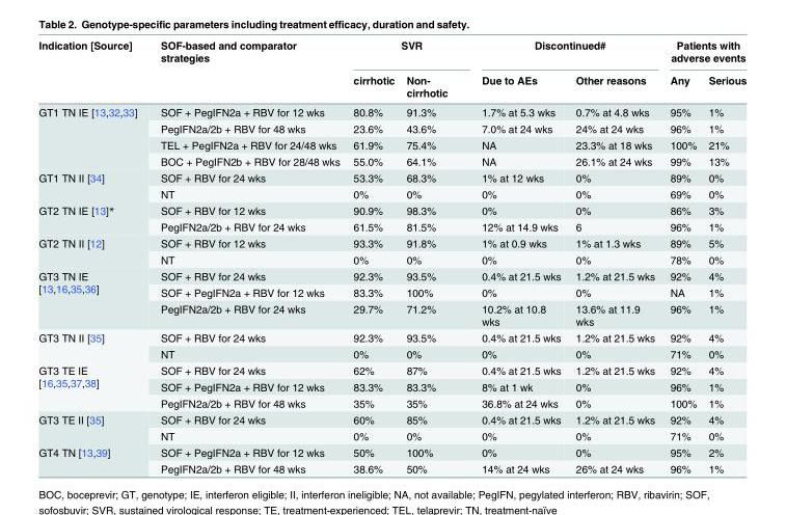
<table><thead><tr><td rowspan="2">Indication [Source]</td><td rowspan="2">SOF-based and comparator strategies</td><td colspan="2">SVR</td><td colspan="2">Discontinued#</td><td colspan="2">Patients with adverse events</td></tr><tr><td>cirrhotic</td><td>Non- cirrhotic</td><td>Due to AEs</td><td>Other reasons</td><td>Any</td><td>Serious</td></tr></thead><tbody><tr><td rowspan="4">GT1 TN IE [13,32,33]</td><td>SOF + PegIFN2a + RBV for 12 wks</td><td>80.8%</td><td>91.3%</td><td>1.7% at 5.3 wks</td><td>0.7% at 4.8 wks</td><td>95%</td><td>1%</td></tr><tr><td>PegIFN2a/2b + RBV for 48 wks</td><td>23.6%</td><td>43.6%</td><td>7.0% at 24 wks</td><td>24% at 24 wks</td><td>96%</td><td>1%</td></tr><tr><td>TEL + PegIFN2a + RBV for 24/48 wks</td><td>61.9%</td><td>75.4%</td><td>NA</td><td>23.3% at 18 wks</td><td>100%</td><td>21%</td></tr><tr><td>BOC + PegIFN2b + RBV for 28/48 wks</td><td>55.0%</td><td>64.1%</td><td>NA</td><td>26.1% at 24 wks</td><td>99%</td><td>13%</td></tr><tr><td rowspan="2">GT1 TN II [34]</td><td>SOF + RBV for 24 wks</td><td>53.3%</td><td>68.3%</td><td>1% at 12 wks</td><td>0%</td><td>89%</td><td>0%</td></tr><tr><td>NT</td><td>0%</td><td>0%</td><td>0%</td><td>0%</td><td>69%</td><td>0%</td></tr><tr><td rowspan="2">GT2 TN IE [13]*</td><td>SOF + RBV for 12 wks</td><td>90.9%</td><td>98.3%</td><td>0%</td><td>0%</td><td>86%</td><td>3%</td></tr><tr><td>PegIFN2a/2b + RBV for 24 wks</td><td>61.5%</td><td>81.5%</td><td>12% at 14.9 wks</td><td>6</td><td>96%</td><td>1%</td></tr><tr><td rowspan="2">GT2 TN II [12]</td><td>SOF + RBV for 12 wks</td><td>93.3%</td><td>91.8%</td><td>1% at 0.9 wks</td><td>1% at 1.3 wks</td><td>89%</td><td>5%</td></tr><tr><td>NT</td><td>0%</td><td>0%</td><td>0%</td><td>0%</td><td>78%</td><td>0%</td></tr><tr><td rowspan="3">GT3 TN IE [13,16,35,36]</td><td>SOF + RBV for 24 wks</td><td>92.3%</td><td>93.5%</td><td>0.4% at 21.5 wks</td><td>1.2% at 21.5 wks</td><td>92%</td><td>4%</td></tr><tr><td>SOF + PegIFN2a + RBV for 12 wks</td><td>83.3%</td><td>100%</td><td>0%</td><td>0%</td><td>NA</td><td>1%</td></tr><tr><td>PegIFN2a/2b + RBV for 24 wks</td><td>29.7%</td><td>71.2%</td><td>10.2% at 10.8 wks</td><td>13.6% at 11.9 wks</td><td>96%</td><td>1%</td></tr><tr><td rowspan="2">GT3 TN II [35]</td><td>SOF + RBV for 24 wks</td><td>92.3%</td><td>93.5%</td><td>0.4% at 21.5 wks</td><td>1.2% at 21.5 wks</td><td>92%</td><td>4%</td></tr><tr><td>NT</td><td>0%</td><td>0%</td><td>0%</td><td>0%</td><td>71%</td><td>0%</td></tr><tr><td rowspan="3">GT3 TE IE [16,35,37,38]</td><td>SOF + RBV for 24 wks</td><td>62%</td><td>87%</td><td>0.4% at 21.5 wks</td><td>1.2% at 21.5 wks</td><td>92%</td><td>4%</td></tr><tr><td>SOF + PegIFN2a + RBV for 12 wks</td><td>83.3%</td><td>83.3%</td><td>8% at 1 wk</td><td>0%</td><td>96%</td><td>1%</td></tr><tr><td>PegIFN2a/2b + RBV for 48 wks</td><td>35%</td><td>35%</td><td>36.8% at 24 wks</td><td>0%</td><td>100%</td><td>1%</td></tr><tr><td rowspan="2">GT3 TE II [35]</td><td>SOF + RBV for 24 wks</td><td>60%</td><td>85%</td><td>0.4% at 21.5 wks</td><td>1.2% at 21.5 wks</td><td>92%</td><td>4%</td></tr><tr><td>NT</td><td>0%</td><td>0%</td><td>0%</td><td>0%</td><td>71%</td><td>0%</td></tr><tr><td rowspan="2">GT4 TN [13,39]</td><td>SOF + PegIFN2a + RBV for 12 wks</td><td>50%</td><td>100%</td><td>0%</td><td>0%</td><td>95%</td><td>2%</td></tr><tr><td>PegIFN2a/2b + RBV for 48 wks</td><td>38.6%</td><td>50%</td><td>14% at 24 wks</td><td>26% at 24 wks</td><td>96%</td><td>1%</td></tr></tbody></table>